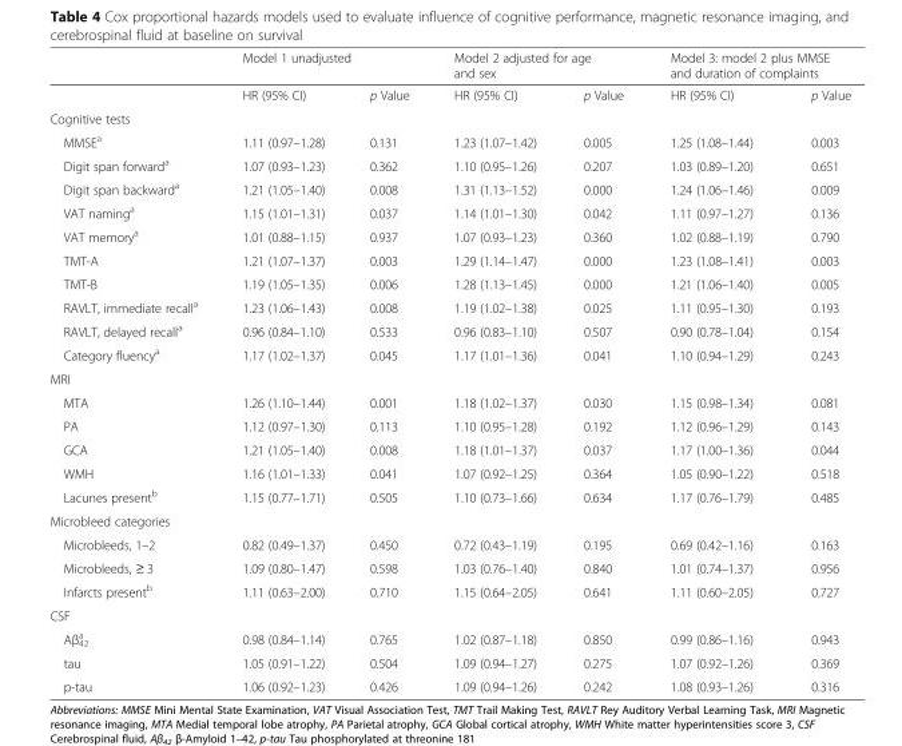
<table><thead><tr><td rowspan="2"></td><td colspan="2">Model 1 unadjusted</td><td colspan="2">Model 2 adjusted for age and sex</td><td colspan="2">Model 3: model 2 plus MMSE and duration of complaints</td></tr><tr><td>HR (95% CI)</td><td>p Value</td><td>HR (95% CI)</td><td>p Value</td><td>HR (95% CI)</td><td>p Value</td></tr></thead><tbody><tr><td colspan="7">Cognitive tests</td></tr><tr><td>MMSE<sup>a</sup></td><td>1.11 (0.97–1.28)</td><td>0.131</td><td>1.23 (1.07–1.42)</td><td>0.005</td><td>1.25 (1.08–1.44)</td><td>0.003</td></tr><tr><td>Digit span forward<sup>a</sup></td><td>1.07 (0.93–1.23)</td><td>0.362</td><td>1.10 (0.95–1.26)</td><td>0.207</td><td>1.03 (0.89–1.20)</td><td>0.651</td></tr><tr><td>Digit span backward<sup>a</sup></td><td>1.21 (1.05–1.40)</td><td>0.008</td><td>1.31 (1.13–1.52)</td><td>0.000</td><td>1.24 (1.06–1.46)</td><td>0.009</td></tr><tr><td>VAT naming<sup>a</sup></td><td>1.15 (1.01–1.31)</td><td>0.037</td><td>1.14 (1.01–1.30)</td><td>0.042</td><td>1.11 (0.97–1.27)</td><td>0.136</td></tr><tr><td>VAT memory<sup>a</sup></td><td>1.01 (0.88–1.15)</td><td>0.937</td><td>1.07 (0.93–1.23)</td><td>0.360</td><td>1.02 (0.88–1.19)</td><td>0.790</td></tr><tr><td>TMT-A</td><td>1.21 (1.07–1.37)</td><td>0.003</td><td>1.29 (1.14–1.47)</td><td>0.000</td><td>1.23 (1.08–1.41)</td><td>0.003</td></tr><tr><td>TMT-B</td><td>1.19 (1.05–1.35)</td><td>0.006</td><td>1.28 (1.13–1.45)</td><td>0.000</td><td>1.21 (1.06–1.40)</td><td>0.005</td></tr><tr><td>RAVLT, immediate recall<sup>a</sup></td><td>1.23 (1.06–1.43)</td><td>0.008</td><td>1.19 (1.02–1.38)</td><td>0.025</td><td>1.11 (0.95–1.30)</td><td>0.193</td></tr><tr><td>RAVLT, delayed recall<sup>a</sup></td><td>0.96 (0.84–1.10)</td><td>0.533</td><td>0.96 (0.83–1.10)</td><td>0.507</td><td>0.90 (0.78–1.04)</td><td>0.154</td></tr><tr><td>Category fluency<sup>a</sup></td><td>1.17 (1.02–1.37)</td><td>0.045</td><td>1.17 (1.01–1.36)</td><td>0.041</td><td>1.10 (0.94–1.29)</td><td>0.243</td></tr><tr><td colspan="7">MRI</td></tr><tr><td>MTA</td><td>1.26 (1.10–1.44)</td><td>0.001</td><td>1.18 (1.02–1.37)</td><td>0.030</td><td>1.15 (0.98–1.34)</td><td>0.081</td></tr><tr><td>PA</td><td>1.12 (0.97–1.30)</td><td>0.113</td><td>1.10 (0.95–1.28)</td><td>0.192</td><td>1.12 (0.96–1.29)</td><td>0.143</td></tr><tr><td>GCA</td><td>1.21 (1.05–1.40)</td><td>0.008</td><td>1.18 (1.01–1.37)</td><td>0.037</td><td>1.17 (1.00–1.36)</td><td>0.044</td></tr><tr><td>WMH</td><td>1.16 (1.01–1.33)</td><td>0.041</td><td>1.07 (0.92–1.25)</td><td>0.364</td><td>1.05 (0.90–1.22)</td><td>0.518</td></tr><tr><td>Lacunes present<sup>b</sup></td><td>1.15 (0.77–1.71)</td><td>0.505</td><td>1.10 (0.73–1.66)</td><td>0.634</td><td>1.17 (0.76–1.79)</td><td>0.485</td></tr><tr><td colspan="7">Microbleed categories</td></tr><tr><td>Microbleeds, 1–2</td><td>0.82 (0.49–1.37)</td><td>0.450</td><td>0.72 (0.43–1.19)</td><td>0.195</td><td>0.69 (0.42–1.16)</td><td>0.163</td></tr><tr><td>Microbleeds, ≥ 3</td><td>1.09 (0.80–1.47)</td><td>0.598</td><td>1.03 (0.76–1.40)</td><td>0.840</td><td>1.01 (0.74–1.37)</td><td>0.956</td></tr><tr><td>Infarcts present<sup>b</sup></td><td>1.11 (0.63–2.00)</td><td>0.710</td><td>1.15 (0.64–2.05)</td><td>0.641</td><td>1.11 (0.60–2.05)</td><td>0.727</td></tr><tr><td colspan="7">CSF</td></tr><tr><td>Aβ<sub>42</sub> <sup>a</sup></td><td>0.98 (0.84–1.14)</td><td>0.765</td><td>1.02 (0.87–1.18)</td><td>0.850</td><td>0.99 (0.86–1.16)</td><td>0.943</td></tr><tr><td>tau</td><td>1.05 (0.91–1.22)</td><td>0.504</td><td>1.09 (0.94–1.27)</td><td>0.275</td><td>1.07 (0.92–1.26)</td><td>0.369</td></tr><tr><td>p-tau</td><td>1.06 (0.92–1.23)</td><td>0.426</td><td>1.09 (0.94–1.26)</td><td>0.242</td><td>1.08 (0.93–1.26)</td><td>0.316</td></tr></tbody></table>